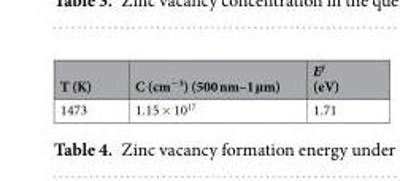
<table><thead><tr><td>T (K)</td><td>C (cm<sup>−3</sup>) (500 nm–1 µm)</td><td>E<sup>f</sup> (eV)</td></tr></thead><tbody><tr><td>1473</td><td>1.15 × 10<sup>17</sup></td><td>1.71</td></tr></tbody></table>